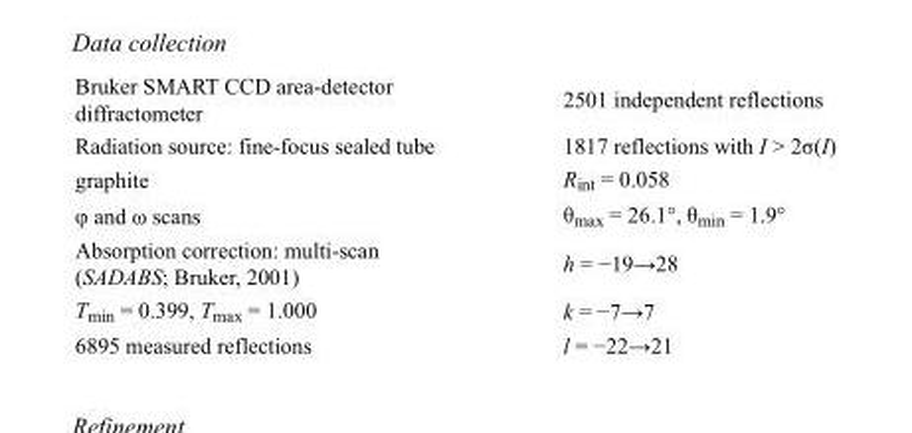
<table><tbody><tr><td>Bruker SMART CCD area-detector diffractometer</td><td>2501 independent reflections</td></tr><tr><td>Radiation source: fine-focus sealed tube</td><td>1817 reflections with I &gt; 2σ(I)</td></tr><tr><td>graphite</td><td>R<sub>int</sub> = 0.058</td></tr><tr><td>φ and ω scans</td><td>θ<sub>max</sub> = 26.1°, θ<sub>min</sub> = 1.9°</td></tr><tr><td>Absorption correction: multi-scan (SADABS; Bruker, 2001)</td><td>h = −19→28</td></tr><tr><td>T<sub>min</sub> = 0.399, T<sub>max</sub> = 1.000</td><td>k = −7→7</td></tr><tr><td>6895 measured reflections</td><td>l = −22→21</td></tr></tbody></table>